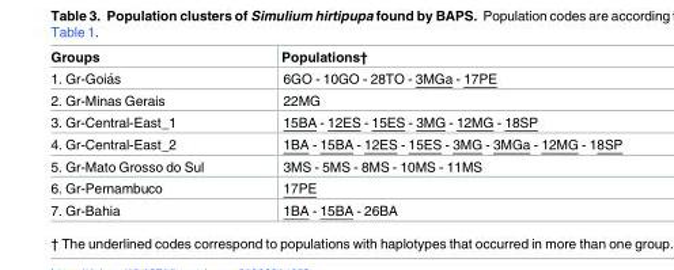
<table><thead><tr><td>Groups</td><td>Populations†</td></tr></thead><tbody><tr><td>1. Gr-Goia´s</td><td>6GO - 10GO - 28TO - 3MGa - 17PE</td></tr><tr><td>2. Gr-Minas Gerais</td><td>22MG</td></tr><tr><td>3. Gr-Central-East_1</td><td>15BA - 12ES - 15ES - 3MG - 12MG - 18SP</td></tr><tr><td>4. Gr-Central-East_2</td><td>1BA - 15BA - 12ES - 15ES - 3MG - 3MGa - 12MG - 18SP</td></tr><tr><td>5. Gr-Mato Grosso do Sul</td><td>3MS - 5MS - 8MS - 10MS - 11MS</td></tr><tr><td>6. Gr-Pernambuco</td><td>17PE</td></tr><tr><td>7. Gr-Bahia</td><td>1BA - 15BA - 26BA</td></tr></tbody></table>